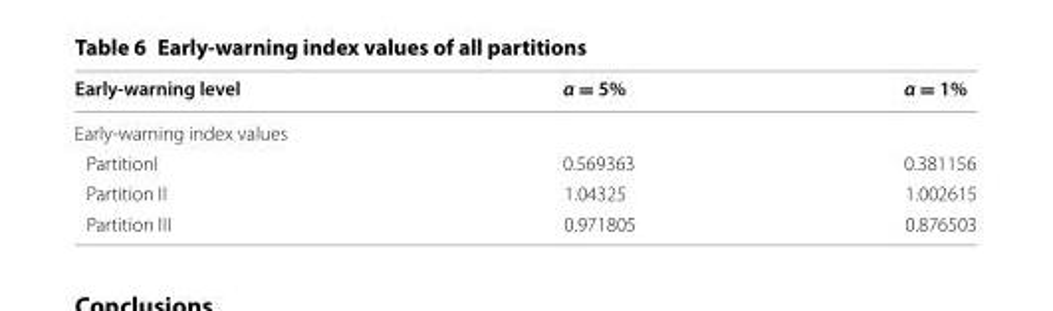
<table><thead><tr><td>Early‑warning level</td><td>α = 5%</td><td>α = 1%</td></tr></thead><tbody><tr><td colspan="3">Early-warning index values</td></tr><tr><td>PartitionI</td><td>0.569363</td><td>0.381156</td></tr><tr><td>Partition II</td><td>1.04325</td><td>1.002615</td></tr><tr><td>Partition III</td><td>0.971805</td><td>0.876503</td></tr></tbody></table>